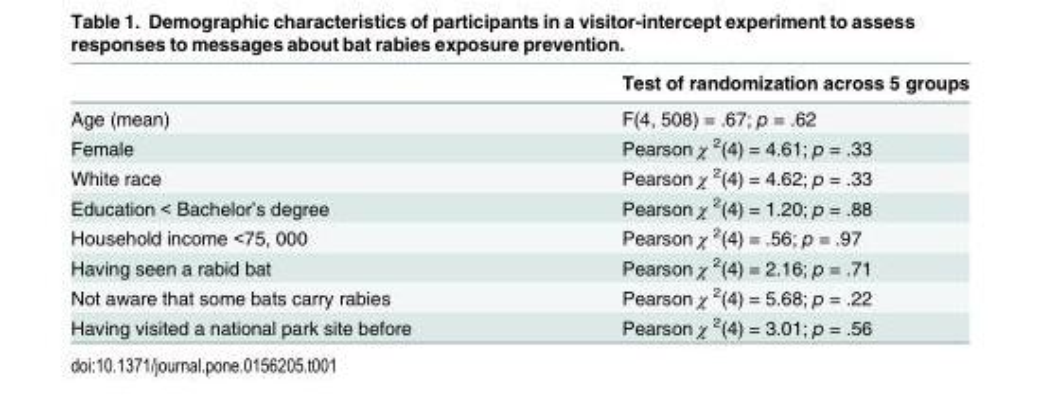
<table><thead><tr><td></td><td>Test of randomization across 5 groups</td></tr></thead><tbody><tr><td>Age (mean)</td><td>F(4, 508) = .67; p = .62</td></tr><tr><td>Female</td><td>Pearson χ <sup>2</sup>(4) = 4.61; p = .33</td></tr><tr><td>White race</td><td>Pearson χ <sup>2</sup>(4) = 4.62; p = .33</td></tr><tr><td>Education &lt; Bachelor’s degree</td><td>Pearson χ <sup>2</sup>(4) = 1.20; p = .88</td></tr><tr><td>Household income &lt;75, 000</td><td>Pearson χ <sup>2</sup>(4) = .56; p = .97</td></tr><tr><td>Having seen a rabid bat</td><td>Pearson χ <sup>2</sup>(4) = 2.16; p = .71</td></tr><tr><td>Not aware that some bats carry rabies</td><td>Pearson χ <sup>2</sup>(4) = 5.68; p = .22</td></tr><tr><td>Having visited a national park site before</td><td>Pearson χ <sup>2</sup>(4) = 3.01; p = .56</td></tr></tbody></table>